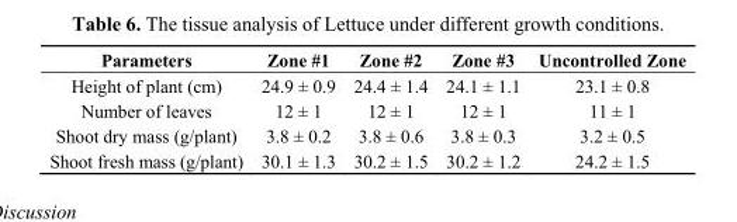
<table><thead><tr><td>Parameters</td><td>Zone #1</td><td>Zone #2</td><td>Zone #3</td><td>Uncontrolled Zone</td></tr></thead><tbody><tr><td>Height of plant (cm)</td><td>24.9 ± 0.9</td><td>24.4 ± 1.4</td><td>24.1 ± 1.1</td><td>23.1 ± 0.8</td></tr><tr><td>Number of leaves</td><td>12 ± 1</td><td>12 ± 1</td><td>12 ± 1</td><td>11 ± 1</td></tr><tr><td>Shoot dry mass (g/plant)</td><td>3.8 ± 0.2</td><td>3.8 ± 0.6</td><td>3.8 ± 0.3</td><td>3.2 ± 0.5</td></tr><tr><td>Shoot fresh mass (g/plant)</td><td>30.1 ± 1.3</td><td>30.2 ± 1.5</td><td>30.2 ± 1.2</td><td>24.2 ± 1.5</td></tr></tbody></table>